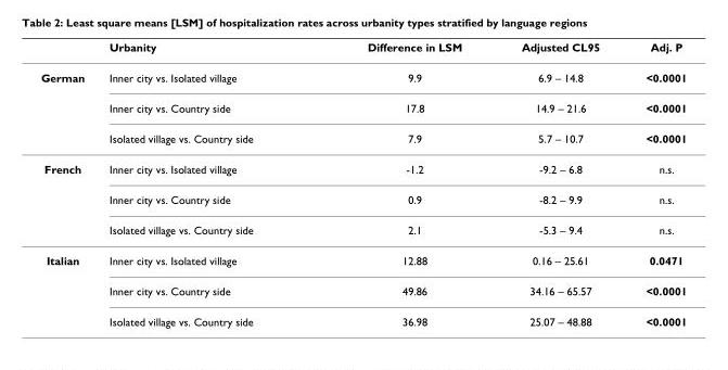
<table><thead><tr><td></td><td>Urbanity</td><td>Difference in LSM</td><td>Adjusted CL95</td><td>Adj. P</td></tr></thead><tbody><tr><td rowspan="3">German</td><td>Inner city vs. Isolated village</td><td>9.9</td><td>6.9 – 14.8</td><td>&lt;0.0001</td></tr><tr><td>Inner city vs. Country side</td><td>17.8</td><td>14.9 – 21.6</td><td>&lt;0.0001</td></tr><tr><td>Isolated village vs. Country side</td><td>7.9</td><td>5.7 – 10.7</td><td>&lt;0.0001</td></tr><tr><td rowspan="3">French</td><td>Inner city vs. Isolated village</td><td>-1.2</td><td>-9.2 – 6.8</td><td>n.s.</td></tr><tr><td>Inner city vs. Country side</td><td>0.9</td><td>-8.2 – 9.9</td><td>n.s.</td></tr><tr><td>Isolated village vs. Country side</td><td>2.1</td><td>-5.3 – 9.4</td><td>n.s.</td></tr><tr><td rowspan="3">Italian</td><td>Inner city vs. Isolated village</td><td>12.88</td><td>0.16 – 25.61</td><td>0.0471</td></tr><tr><td>Inner city vs. Country side</td><td>49.86</td><td>34.16 – 65.57</td><td>&lt;0.0001</td></tr><tr><td>Isolated village vs. Country side</td><td>36.98</td><td>25.07 – 48.88</td><td>&lt;0.0001</td></tr></tbody></table>